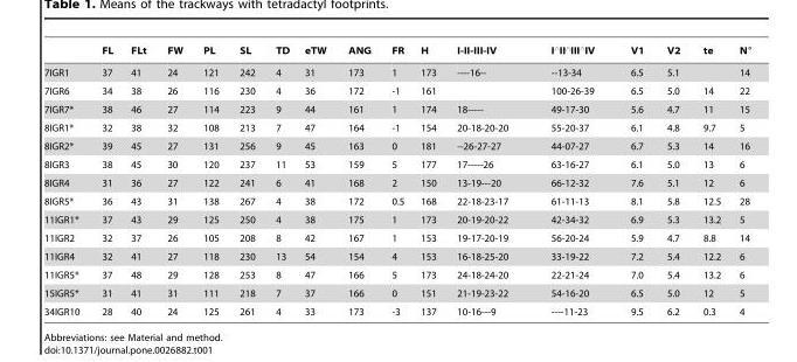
<table><thead><tr><td></td><td>FL</td><td>FLt</td><td>FW</td><td>PL</td><td>SL</td><td>TD</td><td>eTW</td><td>ANG</td><td>FR</td><td>H</td><td>I-II-III-IV</td><td>I‘II‘III‘IV</td><td>V1</td><td>V2</td><td>te</td><td>N°</td></tr></thead><tbody><tr><td>7IGR1</td><td>37</td><td>41</td><td>24</td><td>121</td><td>242</td><td>4</td><td>31</td><td>173</td><td>1</td><td>173</td><td>----16--</td><td>--13-34</td><td>6.5</td><td>5.1</td><td></td><td>14</td></tr><tr><td>7IGR6</td><td>34</td><td>38</td><td>26</td><td>116</td><td>230</td><td>4</td><td>36</td><td>172</td><td>-1</td><td>161</td><td></td><td>100-26-39</td><td>6.5</td><td>5.0</td><td>14</td><td>22</td></tr><tr><td>7IGR7*</td><td>38</td><td>46</td><td>27</td><td>114</td><td>223</td><td>9</td><td>44</td><td>161</td><td>1</td><td>174</td><td>18-----</td><td>49-17-30</td><td>5.6</td><td>4.7</td><td>11</td><td>15</td></tr><tr><td>8IGR1*</td><td>32</td><td>38</td><td>32</td><td>108</td><td>213</td><td>7</td><td>47</td><td>164</td><td>-1</td><td>154</td><td>20-18-20-20</td><td>55-20-37</td><td>6.1</td><td>4.8</td><td>9.7</td><td>5</td></tr><tr><td>8IGR2*</td><td>39</td><td>45</td><td>27</td><td>131</td><td>256</td><td>9</td><td>45</td><td>163</td><td>0</td><td>181</td><td>--26-27-27</td><td>44-07-27</td><td>6.7</td><td>5.3</td><td>14</td><td>16</td></tr><tr><td>8IGR3</td><td>38</td><td>45</td><td>30</td><td>120</td><td>237</td><td>11</td><td>53</td><td>159</td><td>5</td><td>177</td><td>17-----26</td><td>63-16-27</td><td>6.1</td><td>5.0</td><td>13</td><td>6</td></tr><tr><td>8IGR4</td><td>31</td><td>36</td><td>27</td><td>122</td><td>241</td><td>6</td><td>41</td><td>168</td><td>2</td><td>150</td><td>13-19---20</td><td>66-12-32</td><td>7.6</td><td>5.1</td><td>12</td><td>6</td></tr><tr><td>8IGR5*</td><td>36</td><td>43</td><td>31</td><td>138</td><td>267</td><td>4</td><td>38</td><td>172</td><td>0.5</td><td>168</td><td>22-18-23-17</td><td>61-11-13</td><td>8.1</td><td>5.8</td><td>12.5</td><td>28</td></tr><tr><td>11IGR1*</td><td>37</td><td>43</td><td>29</td><td>125</td><td>250</td><td>4</td><td>38</td><td>175</td><td>1</td><td>173</td><td>20-19-20-22</td><td>42-34-32</td><td>6.9</td><td>5.3</td><td>13.2</td><td>5</td></tr><tr><td>11IGR2</td><td>32</td><td>37</td><td>26</td><td>105</td><td>208</td><td>8</td><td>42</td><td>167</td><td>1</td><td>153</td><td>19-17-20-19</td><td>56-20-24</td><td>5.9</td><td>4.7</td><td>8.8</td><td>14</td></tr><tr><td>11IGR4</td><td>32</td><td>41</td><td>27</td><td>118</td><td>230</td><td>13</td><td>54</td><td>154</td><td>4</td><td>153</td><td>16-18-25-20</td><td>33-19-22</td><td>7.2</td><td>5.4</td><td>12.2</td><td>6</td></tr><tr><td>11IGR5*</td><td>37</td><td>48</td><td>29</td><td>128</td><td>253</td><td>8</td><td>47</td><td>166</td><td>5</td><td>173</td><td>24-18-24-20</td><td>22-21-24</td><td>7.0</td><td>5.4</td><td>13.2</td><td>6</td></tr><tr><td>15IGR5*</td><td>31</td><td>41</td><td>31</td><td>111</td><td>218</td><td>7</td><td>37</td><td>166</td><td>0</td><td>151</td><td>21-19-23-22</td><td>54-16-20</td><td>6.5</td><td>5.0</td><td>12</td><td>5</td></tr><tr><td>34IGR10</td><td>28</td><td>40</td><td>24</td><td>125</td><td>261</td><td>4</td><td>33</td><td>173</td><td>-3</td><td>137</td><td>10-16---9</td><td>----11-23</td><td>9.5</td><td>6.2</td><td>0.3</td><td>4</td></tr></tbody></table>